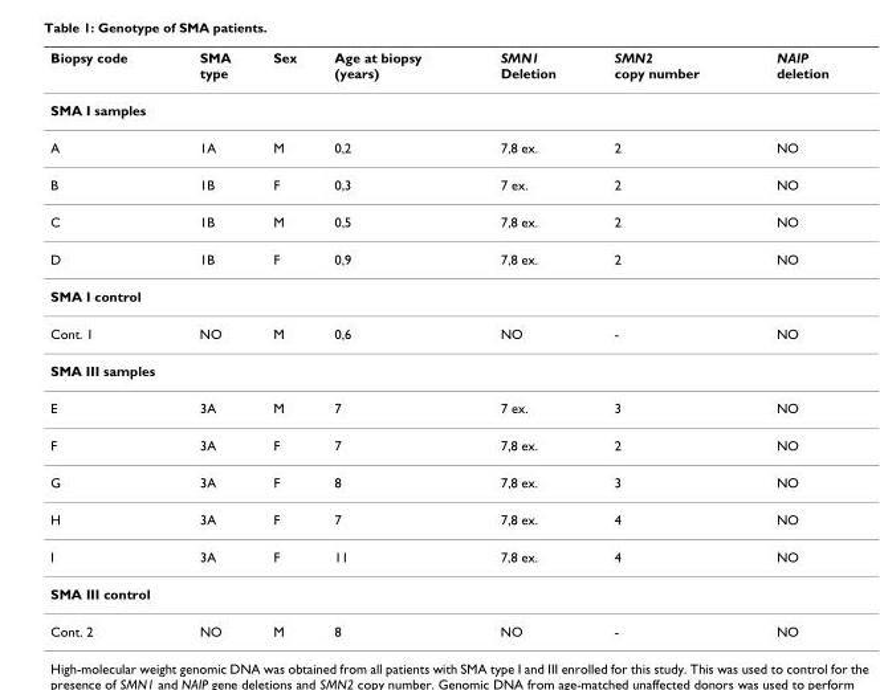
<table><thead><tr><td>Biopsy code</td><td>SMA type</td><td>Sex</td><td>Age at biopsy (years)</td><td>SMN1 Deletion</td><td>SMN2 copy number</td><td>NAIP deletion</td></tr></thead><tbody><tr><td colspan="7">SMA I samples</td></tr><tr><td>A</td><td>1A</td><td>M</td><td>0,2</td><td>7,8 ex.</td><td>2</td><td>NO</td></tr><tr><td>B</td><td>1B</td><td>F</td><td>0,3</td><td>7 ex.</td><td>2</td><td>NO</td></tr><tr><td>C</td><td>1B</td><td>M</td><td>0,5</td><td>7,8 ex.</td><td>2</td><td>NO</td></tr><tr><td>D</td><td>1B</td><td>F</td><td>0,9</td><td>7,8 ex.</td><td>2</td><td>NO</td></tr><tr><td colspan="7">SMA I control</td></tr><tr><td>Cont. 1</td><td>NO</td><td>M</td><td>0,6</td><td>NO</td><td>-</td><td>NO</td></tr><tr><td colspan="7">SMA III samples</td></tr><tr><td>E</td><td>3A</td><td>M</td><td>7</td><td>7 ex.</td><td>3</td><td>NO</td></tr><tr><td>F</td><td>3A</td><td>F</td><td>7</td><td>7,8 ex.</td><td>2</td><td>NO</td></tr><tr><td>G</td><td>3A</td><td>F</td><td>8</td><td>7,8 ex.</td><td>3</td><td>NO</td></tr><tr><td>H</td><td>3A</td><td>F</td><td>7</td><td>7,8 ex.</td><td>4</td><td>NO</td></tr><tr><td>I</td><td>3A</td><td>F</td><td>11</td><td>7,8 ex.</td><td>4</td><td>NO</td></tr><tr><td colspan="7">SMA III control</td></tr><tr><td>Cont. 2</td><td>NO</td><td>M</td><td>8</td><td>NO</td><td>-</td><td>NO</td></tr></tbody></table>